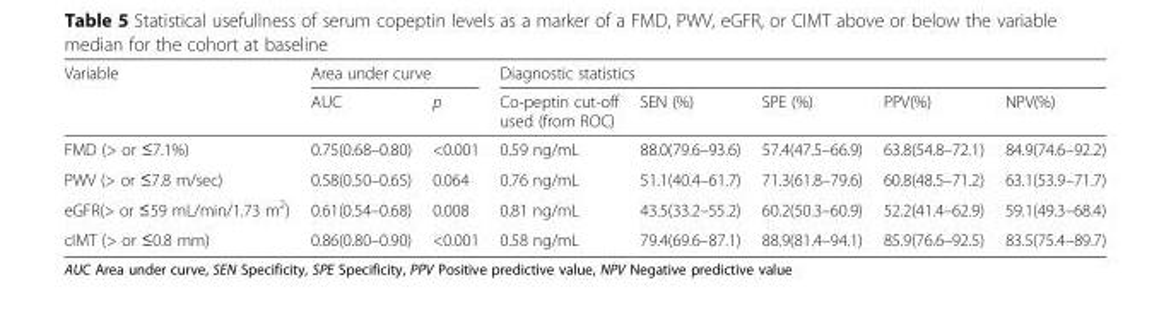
<table><thead><tr><td rowspan="2">Variable</td><td colspan="2">Area under curve</td><td colspan="5">Diagnostic statistics</td></tr><tr><td>AUC</td><td>p</td><td>Co-peptin cut-off used (from ROC)</td><td>SEN (%)</td><td>SPE (%)</td><td>PPV(%)</td><td>NPV(%)</td></tr></thead><tbody><tr><td>FMD (&gt; or ≤7.1%)</td><td>0.75(0.68–0.80)</td><td>&lt;0.001</td><td>0.59 ng/mL</td><td>88.0(79.6–93.6)</td><td>57.4(47.5–66.9)</td><td>63.8(54.8–72.1)</td><td>84.9(74.6–92.2)</td></tr><tr><td>PWV (&gt; or ≤7.8 m/sec)</td><td>0.58(0.50–0.65)</td><td>0.064</td><td>0.76 ng/mL</td><td>51.1(40.4–61.7)</td><td>71.3(61.8–79.6)</td><td>60.8(48.5–71.2)</td><td>63.1(53.9–71.7)</td></tr><tr><td>eGFR(&gt; or ≤59 mL/min/1.73 m<sup>2</sup>)</td><td>0.61(0.54–0.68)</td><td>0.008</td><td>0.81 ng/mL</td><td>43.5(33.2–55.2)</td><td>60.2(50.3–60.9)</td><td>52.2(41.4–62.9)</td><td>59.1(49.3–68.4)</td></tr><tr><td>cIMT (&gt; or ≤0.8 mm)</td><td>0.86(0.80–0.90)</td><td>&lt;0.001</td><td>0.58 ng/mL</td><td>79.4(69.6–87.1)</td><td>88.9(81.4–94.1)</td><td>85.9(76.6–92.5)</td><td>83.5(75.4–89.7)</td></tr></tbody></table>